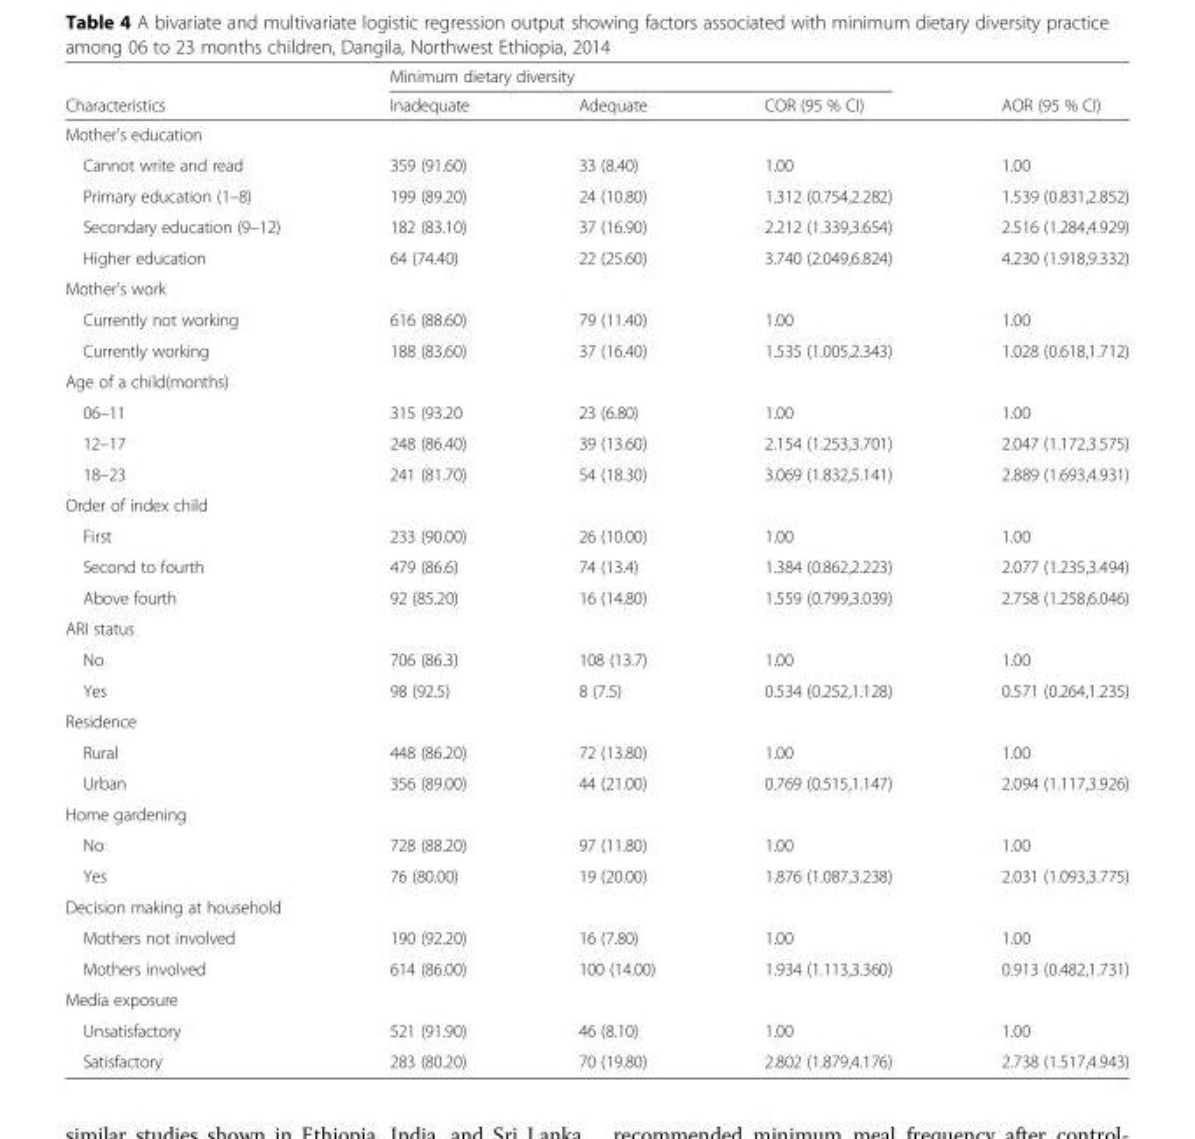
<table><thead><tr><td rowspan="2">Characteristics</td><td colspan="3">Minimum dietary diversity</td><td rowspan="2">AOR (95 % CI)</td></tr><tr><td>Inadequate</td><td>Adequate</td><td>COR (95 % CI)</td></tr></thead><tbody><tr><td colspan="5">Mother&#x27;s education</td></tr><tr><td>Cannot write and read</td><td>359 (91.60)</td><td>33 (8.40)</td><td>1.00</td><td>1.00</td></tr><tr><td>Primary education (1–8)</td><td>199 (89.20)</td><td>24 (10.80)</td><td>1.312 (0.754,2.282)</td><td>1.539 (0.831,2.852)</td></tr><tr><td>Secondary education (9–12)</td><td>182 (83.10)</td><td>37 (16.90)</td><td>2.212 (1.339,3.654)</td><td>2.516 (1.284,4.929)</td></tr><tr><td>Higher education</td><td>64 (74.40)</td><td>22 (25.60)</td><td>3.740 (2.049,6.824)</td><td>4.230 (1.918,9.332)</td></tr><tr><td colspan="5">Mother&#x27;s work</td></tr><tr><td>Currently not working</td><td>616 (88.60)</td><td>79 (11.40)</td><td>1.00</td><td>1.00</td></tr><tr><td>Currently working</td><td>188 (83.60)</td><td>37 (16.40)</td><td>1.535 (1.005,2.343)</td><td>1.028 (0.618,1.712)</td></tr><tr><td colspan="5">Age of a child(months)</td></tr><tr><td>06–11</td><td>315 (93.20</td><td>23 (6.80)</td><td>1.00</td><td>1.00</td></tr><tr><td>12–17</td><td>248 (86.40)</td><td>39 (13.60)</td><td>2.154 (1.253,3.701)</td><td>2.047 (1.172,3.575)</td></tr><tr><td>18–23</td><td>241 (81.70)</td><td>54 (18.30)</td><td>3.069 (1.832,5.141)</td><td>2.889 (1.693,4.931)</td></tr><tr><td colspan="5">Order of index child</td></tr><tr><td>First</td><td>233 (90.00)</td><td>26 (10.00)</td><td>1.00</td><td>1.00</td></tr><tr><td>Second to fourth</td><td>479 (86.6)</td><td>74 (13.4)</td><td>1.384 (0.862,2.223)</td><td>2.077 (1.235,3.494)</td></tr><tr><td>Above fourth</td><td>92 (85.20)</td><td>16 (14.80)</td><td>1.559 (0.799,3.039)</td><td>2.758 (1.258,6.046)</td></tr><tr><td colspan="5">ARI status</td></tr><tr><td>No</td><td>706 (86.3)</td><td>108 (13.7)</td><td>1.00</td><td>1.00</td></tr><tr><td>Yes</td><td>98 (92.5)</td><td>8 (7.5)</td><td>0.534 (0.252,1.128)</td><td>0.571 (0.264,1.235)</td></tr><tr><td colspan="5">Residence</td></tr><tr><td>Rural</td><td>448 (86.20)</td><td>72 (13.80)</td><td>1.00</td><td>1.00</td></tr><tr><td>Urban</td><td>356 (89.00)</td><td>44 (21.00)</td><td>0.769 (0.515,1.147)</td><td>2.094 (1.117,3.926)</td></tr><tr><td colspan="5">Home gardening</td></tr><tr><td>No</td><td>728 (88.20)</td><td>97 (11.80)</td><td>1.00</td><td>1.00</td></tr><tr><td>Yes</td><td>76 (80.00)</td><td>19 (20.00)</td><td>1.876 (1.087,3.238)</td><td>2.031 (1.093,3.775)</td></tr><tr><td colspan="5">Decision making at household</td></tr><tr><td>Mothers not involved</td><td>190 (92.20)</td><td>16 (7.80)</td><td>1.00</td><td>1.00</td></tr><tr><td>Mothers involved</td><td>614 (86.00)</td><td>100 (14.00)</td><td>1.934 (1.113,3.360)</td><td>0.913 (0.482,1.731)</td></tr><tr><td colspan="5">Media exposure</td></tr><tr><td>Unsatisfactory</td><td>521 (91.90)</td><td>46 (8.10)</td><td>1.00</td><td>1.00</td></tr><tr><td>Satisfactory</td><td>283 (80.20)</td><td>70 (19.80)</td><td>2.802 (1.879,4.176)</td><td>2.738 (1.517,4.943)</td></tr></tbody></table>